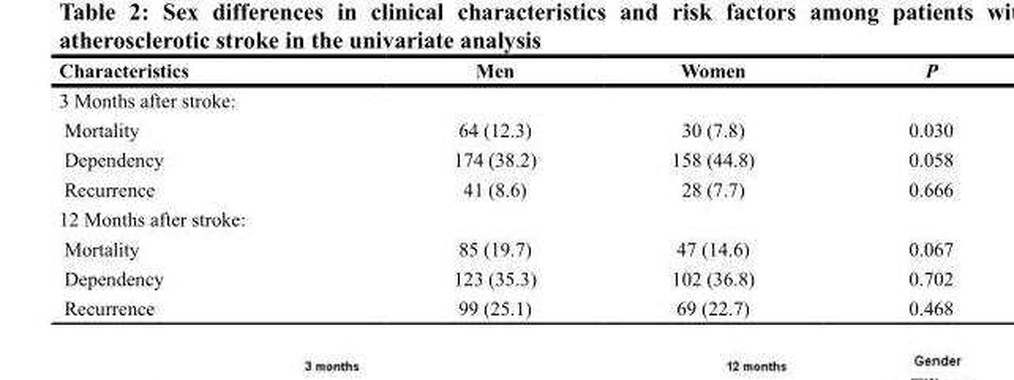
<table><thead><tr><td>Characteristics</td><td>Men</td><td>Women</td><td>P</td></tr></thead><tbody><tr><td colspan="4">3 Months after stroke:</td></tr><tr><td>Mortality</td><td>64 (12.3)</td><td>30 (7.8)</td><td>0.030</td></tr><tr><td>Dependency</td><td>174 (38.2)</td><td>158 (44.8)</td><td>0.058</td></tr><tr><td>Recurrence</td><td>41 (8.6)</td><td>28 (7.7)</td><td>0.666</td></tr><tr><td colspan="4">12 Months after stroke:</td></tr><tr><td>Mortality</td><td>85 (19.7)</td><td>47 (14.6)</td><td>0.067</td></tr><tr><td>Dependency</td><td>123 (35.3)</td><td>102 (36.8)</td><td>0.702</td></tr><tr><td>Recurrence</td><td>99 (25.1)</td><td>69 (22.7)</td><td>0.468</td></tr></tbody></table>